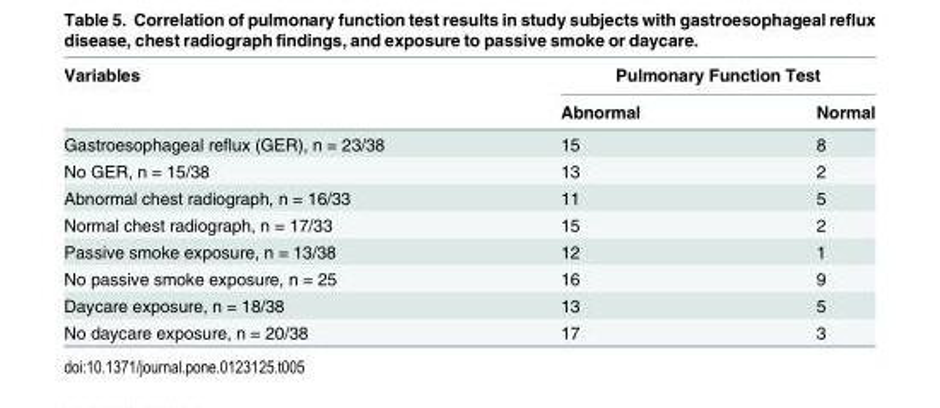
<table><thead><tr><td rowspan="2">Variables</td><td colspan="2">Pulmonary Function Test</td></tr><tr><td>Abnormal</td><td>Normal</td></tr></thead><tbody><tr><td>Gastroesophageal reflux (GER), n = 23/38</td><td>15</td><td>8</td></tr><tr><td>No GER, n = 15/38</td><td>13</td><td>2</td></tr><tr><td>Abnormal chest radiograph, n = 16/33</td><td>11</td><td>5</td></tr><tr><td>Normal chest radiograph, n = 17/33</td><td>15</td><td>2</td></tr><tr><td>Passive smoke exposure, n = 13/38</td><td>12</td><td>1</td></tr><tr><td>No passive smoke exposure, n = 25</td><td>16</td><td>9</td></tr><tr><td>Daycare exposure, n = 18/38</td><td>13</td><td>5</td></tr><tr><td>No daycare exposure, n = 20/38</td><td>17</td><td>3</td></tr></tbody></table>